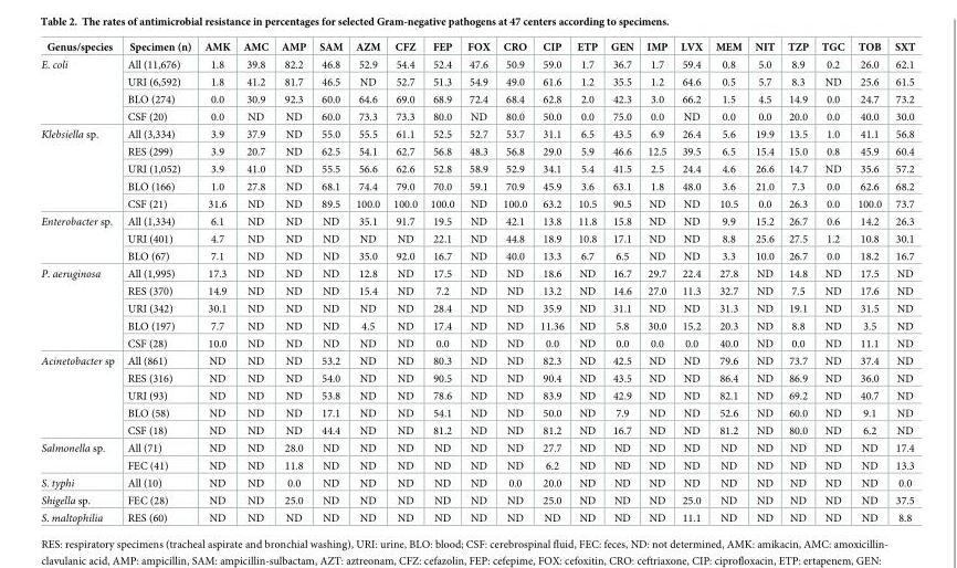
<table><thead><tr><td>Genus/species</td><td>Specimen (n)</td><td>AMK</td><td>AMC</td><td>AMP</td><td>SAM</td><td>AZM</td><td>CFZ</td><td>FEP</td><td>FOX</td><td>CRO</td><td>CIP</td><td>ETP</td><td>GEN</td><td>IMP</td><td>LVX</td><td>MEM</td><td>NIT</td><td>TZP</td><td>TGC</td><td>TOB</td><td>SXT</td></tr></thead><tbody><tr><td rowspan="4">E. coli</td><td>All (11,676)</td><td>1.8</td><td>39.8</td><td>82.2</td><td>46.8</td><td>52.9</td><td>54.4</td><td>52.4</td><td>47.6</td><td>50.9</td><td>59.0</td><td>1.7</td><td>36.7</td><td>1.7</td><td>59.4</td><td>0.8</td><td>5.0</td><td>8.9</td><td>0.2</td><td>26.0</td><td>62.1</td></tr><tr><td>URI (6,592)</td><td>1.8</td><td>41.2</td><td>81.7</td><td>46.5</td><td>ND</td><td>52.7</td><td>51.3</td><td>54.9</td><td>49.0</td><td>61.6</td><td>1.2</td><td>35.5</td><td>1.2</td><td>64.6</td><td>0.5</td><td>5.7</td><td>8.3</td><td>ND</td><td>25.6</td><td>61.5</td></tr><tr><td>BLO (274)</td><td>0.0</td><td>30.9</td><td>92.3</td><td>60.0</td><td>64.6</td><td>69.0</td><td>68.9</td><td>72.4</td><td>68.4</td><td>62.8</td><td>2.0</td><td>42.3</td><td>3.0</td><td>66.2</td><td>1.5</td><td>4.5</td><td>14.9</td><td>0.0</td><td>24.7</td><td>73.2</td></tr><tr><td>CSF (20)</td><td>0.0</td><td>ND</td><td>ND</td><td>60.0</td><td>73.3</td><td>73.3</td><td>80.0</td><td>ND</td><td>80.0</td><td>50.0</td><td>0.0</td><td>75.0</td><td>0.0</td><td>ND</td><td>0.0</td><td>0.0</td><td>20.0</td><td>0.0</td><td>40.0</td><td>30.0</td></tr><tr><td rowspan="5">Klebsiella sp.</td><td>All (3,334)</td><td>3.9</td><td>37.9</td><td>ND</td><td>55.0</td><td>55.5</td><td>61.1</td><td>52.5</td><td>52.7</td><td>53.7</td><td>31.1</td><td>6.5</td><td>43.5</td><td>6.9</td><td>26.4</td><td>5.6</td><td>19.9</td><td>13.5</td><td>1.0</td><td>41.1</td><td>56.8</td></tr><tr><td>RES (299)</td><td>3.9</td><td>20.7</td><td>ND</td><td>62.5</td><td>54.1</td><td>62.7</td><td>56.8</td><td>48.3</td><td>56.8</td><td>29.0</td><td>5.9</td><td>46.6</td><td>12.5</td><td>39.5</td><td>6.5</td><td>15.4</td><td>15.0</td><td>0.8</td><td>45.9</td><td>60.4</td></tr><tr><td>URI (1,052)</td><td>3.9</td><td>41.0</td><td>ND</td><td>55.5</td><td>56.6</td><td>62.6</td><td>52.8</td><td>58.9</td><td>52.9</td><td>34.1</td><td>5.4</td><td>41.5</td><td>2.5</td><td>24.4</td><td>4.6</td><td>26.6</td><td>14.7</td><td>ND</td><td>35.6</td><td>57.2</td></tr><tr><td>BLO (166)</td><td>1.0</td><td>27.8</td><td>ND</td><td>68.1</td><td>74.4</td><td>79.0</td><td>70.0</td><td>59.1</td><td>70.9</td><td>45.9</td><td>3.6</td><td>63.1</td><td>1.8</td><td>48.0</td><td>3.6</td><td>21.0</td><td>7.3</td><td>0.0</td><td>62.6</td><td>68.2</td></tr><tr><td>CSF (21)</td><td>31.6</td><td>ND</td><td>ND</td><td>89.5</td><td>100.0</td><td>100.0</td><td>100.0</td><td>ND</td><td>100.0</td><td>63.2</td><td>10.5</td><td>90.5</td><td>ND</td><td>ND</td><td>10.5</td><td>0.0</td><td>26.3</td><td>0.0</td><td>100.0</td><td>73.7</td></tr><tr><td rowspan="3">Enterobacter sp.</td><td>All (1,334)</td><td>6.1</td><td>ND</td><td>ND</td><td>ND</td><td>35.1</td><td>91.7</td><td>19.5</td><td>ND</td><td>42.1</td><td>13.8</td><td>11.8</td><td>15.8</td><td>ND</td><td>ND</td><td>9.9</td><td>15.2</td><td>26.7</td><td>0.6</td><td>14.2</td><td>26.3</td></tr><tr><td>URI (401)</td><td>4.7</td><td>ND</td><td>ND</td><td>ND</td><td>ND</td><td>ND</td><td>22.1</td><td>ND</td><td>44.8</td><td>18.9</td><td>10.8</td><td>17.1</td><td>ND</td><td>ND</td><td>8.8</td><td>25.6</td><td>27.5</td><td>1.2</td><td>10.8</td><td>30.1</td></tr><tr><td>BLO (67)</td><td>7.1</td><td>ND</td><td>ND</td><td>ND</td><td>35.0</td><td>92.0</td><td>16.7</td><td>ND</td><td>40.0</td><td>13.3</td><td>6.7</td><td>6.5</td><td>ND</td><td>ND</td><td>3.3</td><td>10.0</td><td>26.7</td><td>0.0</td><td>18.2</td><td>16.7</td></tr><tr><td rowspan="5">P. aeruginosa</td><td>All (1,995)</td><td>17.3</td><td>ND</td><td>ND</td><td>ND</td><td>12.8</td><td>ND</td><td>17.5</td><td>ND</td><td>ND</td><td>18.6</td><td>ND</td><td>16.7</td><td>29.7</td><td>22.4</td><td>27.8</td><td>ND</td><td>14.8</td><td>ND</td><td>17.5</td><td>ND</td></tr><tr><td>RES (370)</td><td>14.9</td><td>ND</td><td>ND</td><td>ND</td><td>15.4</td><td>ND</td><td>7.2</td><td>ND</td><td>ND</td><td>13.2</td><td>ND</td><td>14.6</td><td>27.0</td><td>11.3</td><td>32.7</td><td>ND</td><td>7.5</td><td>ND</td><td>17.6</td><td>ND</td></tr><tr><td>URI (342)</td><td>30.1</td><td>ND</td><td>ND</td><td>ND</td><td>ND</td><td>ND</td><td>28.4</td><td>ND</td><td>ND</td><td>35.9</td><td>ND</td><td>31.1</td><td>ND</td><td>ND</td><td>31.3</td><td>ND</td><td>19.1</td><td>ND</td><td>31.5</td><td>ND</td></tr><tr><td>BLO (197)</td><td>7.7</td><td>ND</td><td>ND</td><td>ND</td><td>4.5</td><td>ND</td><td>17.4</td><td>ND</td><td>ND</td><td>11.36</td><td>ND</td><td>5.8</td><td>30.0</td><td>15.2</td><td>20.3</td><td>ND</td><td>8.8</td><td>ND</td><td>3.5</td><td>ND</td></tr><tr><td>CSF (28)</td><td>10.0</td><td>ND</td><td>ND</td><td>ND</td><td>ND</td><td>ND</td><td>0.0</td><td>ND</td><td>ND</td><td>0.0</td><td>ND</td><td>0.0</td><td>0.0</td><td>0.0</td><td>40.0</td><td>ND</td><td>0.0</td><td>ND</td><td>11.1</td><td>ND</td></tr><tr><td rowspan="5">Acinetobacter sp</td><td>All (861)</td><td>ND</td><td>ND</td><td>ND</td><td>53.2</td><td>ND</td><td>ND</td><td>80.3</td><td>ND</td><td>ND</td><td>82.3</td><td>ND</td><td>42.5</td><td>ND</td><td>ND</td><td>79.6</td><td>ND</td><td>73.7</td><td>ND</td><td>37.4</td><td>ND</td></tr><tr><td>RES (316)</td><td>ND</td><td>ND</td><td>ND</td><td>54.0</td><td>ND</td><td>ND</td><td>90.5</td><td>ND</td><td>ND</td><td>90.4</td><td>ND</td><td>43.5</td><td>ND</td><td>ND</td><td>86.4</td><td>ND</td><td>86.9</td><td>ND</td><td>36.0</td><td>ND</td></tr><tr><td>URI (93)</td><td>ND</td><td>ND</td><td>ND</td><td>53.8</td><td>ND</td><td>ND</td><td>78.6</td><td>ND</td><td>ND</td><td>83.9</td><td>ND</td><td>42.9</td><td>ND</td><td>ND</td><td>82.1</td><td>ND</td><td>69.2</td><td>ND</td><td>40.7</td><td>ND</td></tr><tr><td>BLO (58)</td><td>ND</td><td>ND</td><td>ND</td><td>17.1</td><td>ND</td><td>ND</td><td>54.1</td><td>ND</td><td>ND</td><td>50.0</td><td>ND</td><td>7.9</td><td>ND</td><td>ND</td><td>52.6</td><td>ND</td><td>60.0</td><td>ND</td><td>9.1</td><td>ND</td></tr><tr><td>CSF (18)</td><td>ND</td><td>ND</td><td>ND</td><td>44.4</td><td>ND</td><td>ND</td><td>81.2</td><td>ND</td><td>ND</td><td>81.2</td><td>ND</td><td>16.7</td><td>ND</td><td>ND</td><td>81.2</td><td>ND</td><td>80.0</td><td>ND</td><td>6.2</td><td>ND</td></tr><tr><td rowspan="2">Salmonella sp.</td><td>All (71)</td><td>ND</td><td>ND</td><td>28.0</td><td>ND</td><td>ND</td><td>ND</td><td>ND</td><td>ND</td><td>ND</td><td>27.7</td><td>ND</td><td>ND</td><td>ND</td><td>ND</td><td>ND</td><td>ND</td><td>ND</td><td>ND</td><td>ND</td><td>17.4</td></tr><tr><td>FEC (41)</td><td>ND</td><td>ND</td><td>11.8</td><td>ND</td><td>ND</td><td>ND</td><td>ND</td><td>ND</td><td>ND</td><td>6.2</td><td>ND</td><td>ND</td><td>ND</td><td>ND</td><td>ND</td><td>ND</td><td>ND</td><td>ND</td><td>ND</td><td>13.3</td></tr><tr><td>S. typhi</td><td>All (10)</td><td>ND</td><td>ND</td><td>0.0</td><td>ND</td><td>ND</td><td>ND</td><td>ND</td><td>ND</td><td>0.0</td><td>20.0</td><td>ND</td><td>ND</td><td>ND</td><td>ND</td><td>ND</td><td>ND</td><td>ND</td><td>ND</td><td>ND</td><td>0.0</td></tr><tr><td>Shigella sp.</td><td>FEC (28)</td><td>ND</td><td>ND</td><td>25.0</td><td>ND</td><td>ND</td><td>ND</td><td>ND</td><td>ND</td><td>ND</td><td>25.0</td><td>ND</td><td>ND</td><td>ND</td><td>25.0</td><td>ND</td><td>ND</td><td>ND</td><td>ND</td><td>ND</td><td>37.5</td></tr><tr><td>S. maltophilia</td><td>RES (60)</td><td>ND</td><td>ND</td><td>ND</td><td>ND</td><td>ND</td><td>ND</td><td>ND</td><td>ND</td><td>ND</td><td>ND</td><td>ND</td><td>ND</td><td>ND</td><td>11.1</td><td>ND</td><td>ND</td><td>ND</td><td>ND</td><td>ND</td><td>8.8</td></tr></tbody></table>